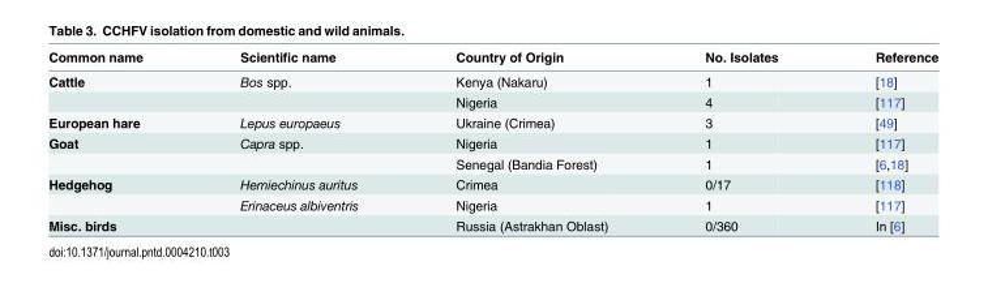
<table><thead><tr><td>Common name</td><td>Scientific name</td><td>Country of Origin</td><td>No. Isolates</td><td>Reference</td></tr></thead><tbody><tr><td rowspan="2">Cattle</td><td>Bos spp.</td><td>Kenya (Nakaru)</td><td>1</td><td>[18]</td></tr><tr><td></td><td>Nigeria</td><td>4</td><td>[117]</td></tr><tr><td>European hare</td><td>Lepus europaeus</td><td>Ukraine (Crimea)</td><td>3</td><td>[49]</td></tr><tr><td rowspan="2">Goat</td><td>Capra spp.</td><td>Nigeria</td><td>1</td><td>[117]</td></tr><tr><td></td><td>Senegal (Bandia Forest)</td><td>1</td><td>[6,18]</td></tr><tr><td rowspan="2">Hedgehog</td><td>Hemiechinus auritus</td><td>Crimea</td><td>0/17</td><td>[118]</td></tr><tr><td>Erinaceus albiventris</td><td>Nigeria</td><td>1</td><td>[117]</td></tr><tr><td>Misc. birds</td><td></td><td>Russia (Astrakhan Oblast)</td><td>0/360</td><td>In [6]</td></tr></tbody></table>